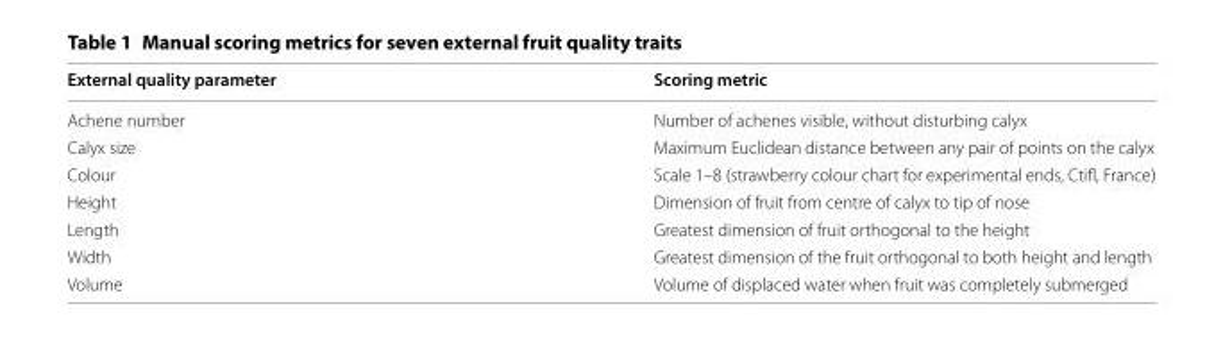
<table><thead><tr><td>External quality parameter</td><td>Scoring metric</td></tr></thead><tbody><tr><td>Achene number</td><td>Number of achenes visible, without disturbing calyx</td></tr><tr><td>Calyx size</td><td>Maximum Euclidean distance between any pair of points on the calyx</td></tr><tr><td>Colour</td><td>Scale 1–8 (strawberry colour chart for experimental ends, Ctifl, France)</td></tr><tr><td>Height</td><td>Dimension of fruit from centre of calyx to tip of nose</td></tr><tr><td>Length</td><td>Greatest dimension of fruit orthogonal to the height</td></tr><tr><td>Width</td><td>Greatest dimension of the fruit orthogonal to both height and length</td></tr><tr><td>Volume</td><td>Volume of displaced water when fruit was completely submerged</td></tr></tbody></table>